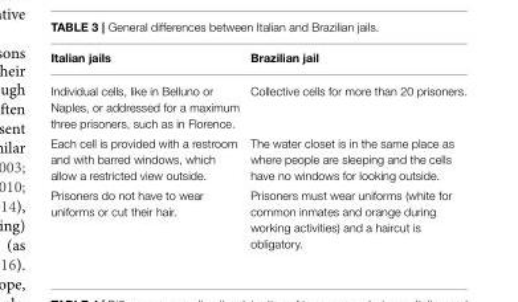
<table><thead><tr><td>Italian jails</td><td>Brazilian jail</td></tr></thead><tbody><tr><td>Individual cells, like in Belluno or Naples, or addressed for a maximum three prisoners, such as in Florence.</td><td>Collective cells for more than 20 prisoners.</td></tr><tr><td>Each cell is provided with a restroom and with barred windows, which allow a restricted view outside.</td><td>The water closet is in the same place as where people are sleeping and the cells have no windows for looking outside.</td></tr><tr><td>Prisoners do not have to wear uniforms or cut their hair.</td><td>Prisoners must wear uniforms (white for common inmates and orange during working activities) and a haircut is obligatory.</td></tr></tbody></table>